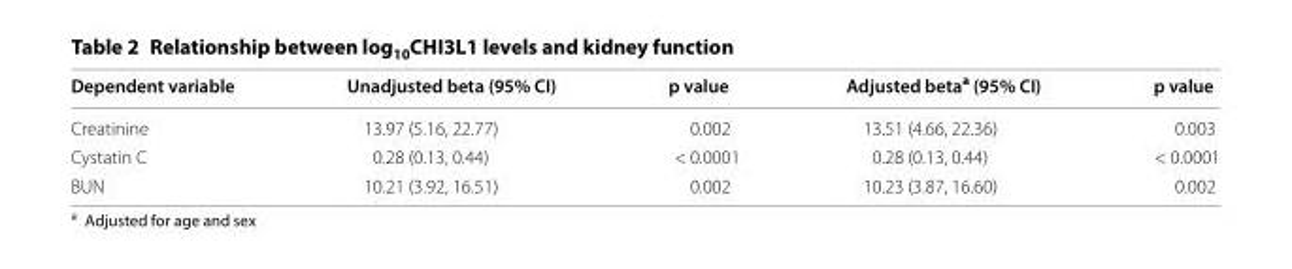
<table><thead><tr><td>Dependent variable</td><td>Unadjusted beta (95% CI)</td><td>p value</td><td>Adjusted beta<sup>a</sup> (95% CI)</td><td>p value</td></tr></thead><tbody><tr><td>Creatinine</td><td>13.97 (5.16, 22.77)</td><td>0.002</td><td>13.51 (4.66, 22.36)</td><td>0.003</td></tr><tr><td>Cystatin C</td><td>0.28 (0.13, 0.44)</td><td>&lt; 0.0001</td><td>0.28 (0.13, 0.44)</td><td>&lt; 0.0001</td></tr><tr><td>BUN</td><td>10.21 (3.92, 16.51)</td><td>0.002</td><td>10.23 (3.87, 16.60)</td><td>0.002</td></tr></tbody></table>